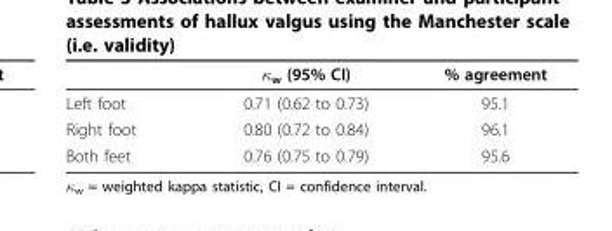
<table><thead><tr><td></td><td>κ<sub>w</sub> (95% CI)</td><td>% agreement</td></tr></thead><tbody><tr><td>Left foot</td><td>0.71 (0.62 to 0.73)</td><td>95.1</td></tr><tr><td>Right foot</td><td>0.80 (0.72 to 0.84)</td><td>96.1</td></tr><tr><td>Both feet</td><td>0.76 (0.75 to 0.79)</td><td>95.6</td></tr></tbody></table>